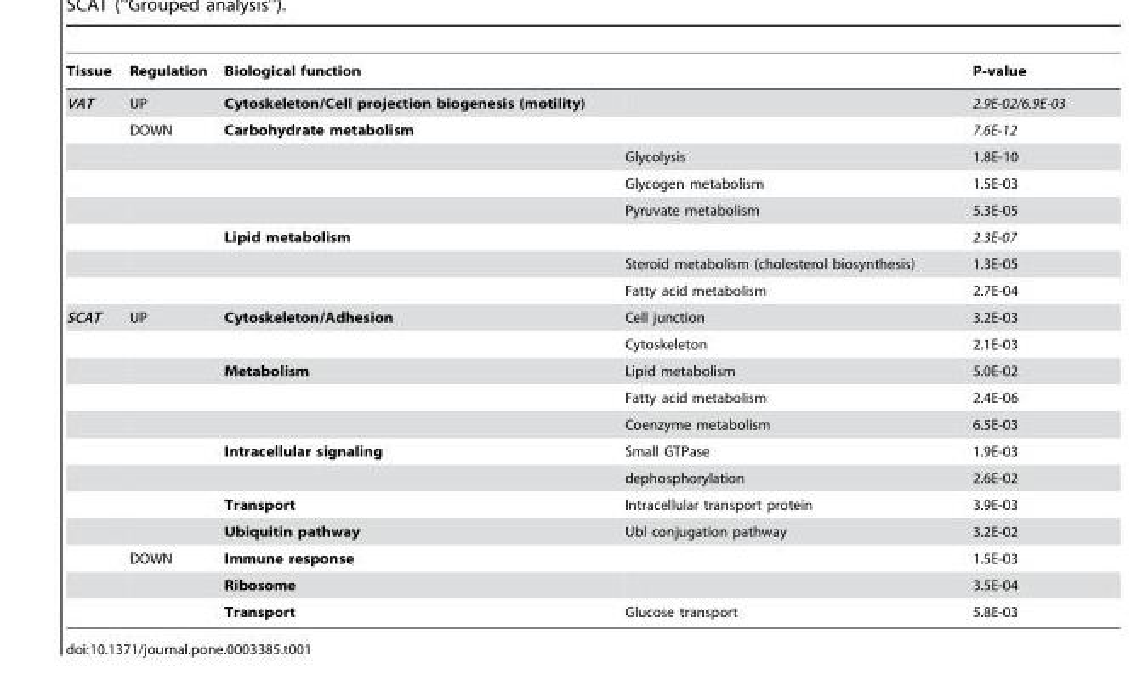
<table><thead><tr><td rowspan="2">Tissue VAT</td><td rowspan="2">Regulation UP</td><td colspan="2">Biological function</td><td rowspan="2">P-value 2.9E-02/6.9E-03</td></tr><tr><td>Cytoskeleton/Cell projection biogenesis (motility)</td><td></td></tr></thead><tbody><tr><td></td><td>DOWN</td><td>Carbohydrate metabolism</td><td></td><td>7.6E-12</td></tr><tr><td></td><td></td><td></td><td>Glycolysis</td><td>1.8E-10</td></tr><tr><td></td><td></td><td></td><td>Glycogen metabolism</td><td>1.5E-03</td></tr><tr><td></td><td></td><td></td><td>Pyruvate metabolism</td><td>5.3E-05</td></tr><tr><td></td><td></td><td>Lipid metabolism</td><td></td><td>2.3E-07</td></tr><tr><td></td><td></td><td></td><td>Steroid metabolism (cholesterol biosynthesis)</td><td>1.3E-05</td></tr><tr><td></td><td></td><td></td><td>Fatty acid metabolism</td><td>2.7E-04</td></tr><tr><td rowspan="12">SCAT</td><td>UP</td><td>Cytoskeleton/Adhesion</td><td>Cell junction</td><td>3.2E-03</td></tr><tr><td></td><td></td><td>Cytoskeleton</td><td>2.1E-03</td></tr><tr><td></td><td>Metabolism</td><td>Lipid metabolism</td><td>5.0E-02</td></tr><tr><td></td><td></td><td>Fatty acid metabolism</td><td>2.4E-06</td></tr><tr><td></td><td></td><td>Coenzyme metabolism</td><td>6.5E-03</td></tr><tr><td></td><td>Intracellular signaling</td><td>Small GTPase</td><td>1.9E-03</td></tr><tr><td></td><td></td><td>dephosphorylation</td><td>2.6E-02</td></tr><tr><td></td><td>Transport</td><td>Intracellular transport protein</td><td>3.9E-03</td></tr><tr><td></td><td>Ubiquitin pathway</td><td>Ubl conjugation pathway</td><td>3.2E-02</td></tr><tr><td>DOWN</td><td>Immune response</td><td></td><td>1.5E-03</td></tr><tr><td></td><td>Ribosome</td><td></td><td>3.5E-04</td></tr><tr><td></td><td>Transport</td><td>Glucose transport</td><td>5.8E-03</td></tr></tbody></table>